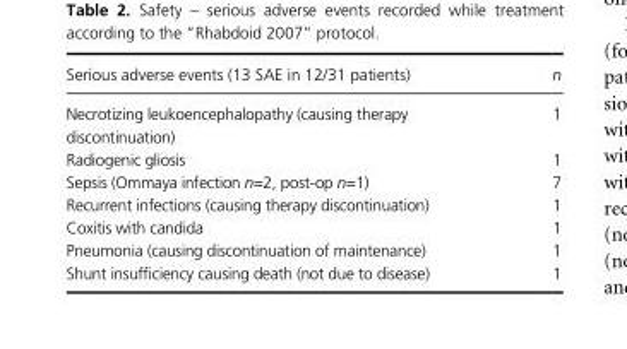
<table><thead><tr><td>Serious adverse events (13 SAE in 12/31 patients)</td><td>n</td></tr></thead><tbody><tr><td>Necrotizing leukoencephalopathy (causing therapy discontinuation)</td><td>1</td></tr><tr><td>Radiogenic gliosis</td><td>1</td></tr><tr><td>Sepsis (Ommaya infection n=2, post- op n=1)</td><td>7</td></tr><tr><td>Recurrent infections (causing therapy discontinuation)</td><td>1</td></tr><tr><td>Coxitis with candida</td><td>1</td></tr><tr><td>Pneumonia (causing discontinuation of maintenance)</td><td>1</td></tr><tr><td>Shunt insufficiency causing death (not due to disease)</td><td>1</td></tr></tbody></table>